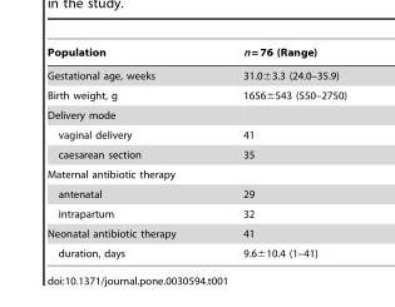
<table><thead><tr><td>Population</td><td>n = 76 (Range)</td></tr></thead><tbody><tr><td>Gestational age, weeks</td><td>31.0±3.3 (24.0–35.9)</td></tr><tr><td>Birth weight, g</td><td>1656±543 (550–2750)</td></tr><tr><td colspan="2">Delivery mode</td></tr><tr><td>vaginal delivery</td><td>41</td></tr><tr><td>caesarean section</td><td>35</td></tr><tr><td colspan="2">Maternal antibiotic therapy</td></tr><tr><td>antenatal</td><td>29</td></tr><tr><td>intrapartum</td><td>32</td></tr><tr><td>Neonatal antibiotic therapy</td><td>41</td></tr><tr><td>duration, days</td><td>9.6±10.4 (1–41)</td></tr></tbody></table>